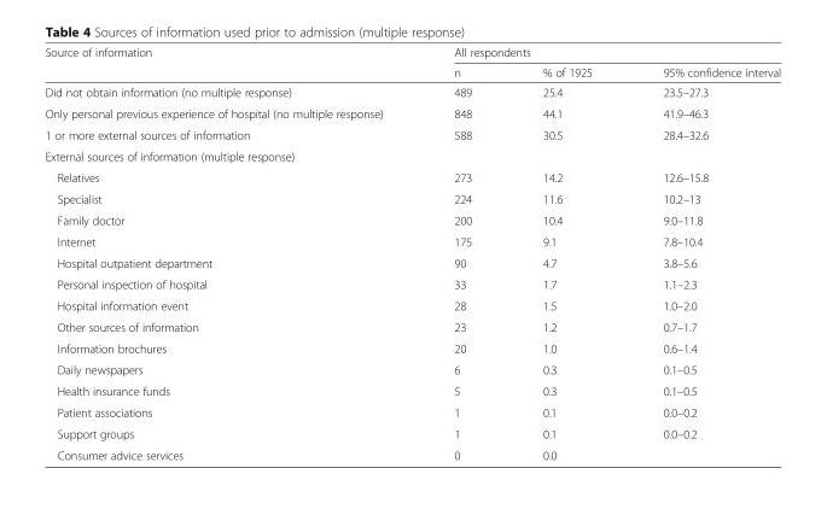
<table><thead><tr><td rowspan="2">Source of information</td><td colspan="3">All respondents</td></tr><tr><td>n</td><td>% of 1925</td><td>95% confidence interval</td></tr></thead><tbody><tr><td>Did not obtain information (no multiple response)</td><td>489</td><td>25.4</td><td>23.5–27.3</td></tr><tr><td>Only personal previous experience of hospital (no multiple response)</td><td>848</td><td>44.1</td><td>41.9–46.3</td></tr><tr><td>1 or more external sources of information</td><td>588</td><td>30.5</td><td>28.4–32.6</td></tr><tr><td colspan="4">External sources of information (multiple response)</td></tr><tr><td>Relatives</td><td>273</td><td>14.2</td><td>12.6–15.8</td></tr><tr><td>Specialist</td><td>224</td><td>11.6</td><td>10.2–13</td></tr><tr><td>Family doctor</td><td>200</td><td>10.4</td><td>9.0–11.8</td></tr><tr><td>Internet</td><td>175</td><td>9.1</td><td>7.8–10.4</td></tr><tr><td>Hospital outpatient department</td><td>90</td><td>4.7</td><td>3.8–5.6</td></tr><tr><td>Personal inspection of hospital</td><td>33</td><td>1.7</td><td>1.1–2.3</td></tr><tr><td>Hospital information event</td><td>28</td><td>1.5</td><td>1.0–2.0</td></tr><tr><td>Other sources of information</td><td>23</td><td>1.2</td><td>0.7–1.7</td></tr><tr><td>Information brochures</td><td>20</td><td>1.0</td><td>0.6–1.4</td></tr><tr><td>Daily newspapers</td><td>6</td><td>0.3</td><td>0.1–0.5</td></tr><tr><td>Health insurance funds</td><td>5</td><td>0.3</td><td>0.1–0.5</td></tr><tr><td>Patient associations</td><td>1</td><td>0.1</td><td>0.0–0.2</td></tr><tr><td>Support groups</td><td>1</td><td>0.1</td><td>0.0–0.2</td></tr><tr><td>Consumer advice services</td><td>0</td><td>0.0</td><td></td></tr></tbody></table>